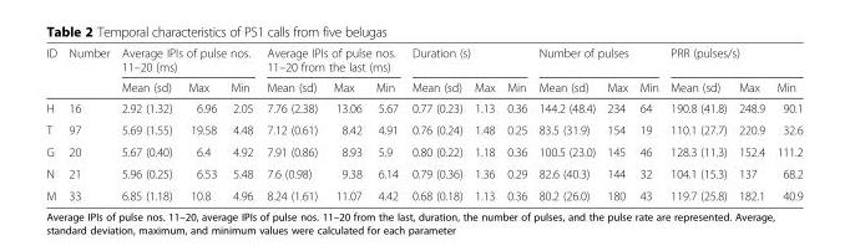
<table><thead><tr><td rowspan="2">ID</td><td rowspan="2">Number</td><td colspan="3">Average IPIs of pulse nos. 11–20 (ms)</td><td colspan="3">Average IPIs of pulse nos. 11–20 from the last (ms)</td><td colspan="3">Duration (s)</td><td colspan="3">Number of pulses</td><td colspan="3">PRR (pulses/s)</td></tr><tr><td>Mean (sd)</td><td>Max</td><td>Min</td><td>Mean (sd)</td><td>Max</td><td>Min</td><td>Mean (sd)</td><td>Max</td><td>Min</td><td>Mean (sd)</td><td>Max</td><td>Min</td><td>Mean (sd)</td><td>Max</td><td>Min</td></tr></thead><tbody><tr><td>H</td><td>16</td><td>2.92 (1.32)</td><td>6.96</td><td>2.05</td><td>7.76 (2.38)</td><td>13.06</td><td>5.67</td><td>0.77 (0.23)</td><td>1.13</td><td>0.36</td><td>144.2 (48.4)</td><td>234</td><td>64</td><td>190.8 (41.8)</td><td>248.9</td><td>90.1</td></tr><tr><td>T</td><td>97</td><td>5.69 (1.55)</td><td>19.58</td><td>4.48</td><td>7.12 (0.61)</td><td>8.42</td><td>4.91</td><td>0.76 (0.24)</td><td>1.48</td><td>0.25</td><td>83.5 (31.9)</td><td>154</td><td>19</td><td>110.1 (27.7)</td><td>220.9</td><td>32.6</td></tr><tr><td>G</td><td>20</td><td>5.67 (0.40)</td><td>6.4</td><td>4.92</td><td>7.91 (0.86)</td><td>8.93</td><td>5.9</td><td>0.80 (0.22)</td><td>1.18</td><td>0.36</td><td>100.5 (23.0)</td><td>145</td><td>46</td><td>128.3 (11.3)</td><td>152.4</td><td>111.2</td></tr><tr><td>N</td><td>21</td><td>5.96 (0.25)</td><td>6.53</td><td>5.48</td><td>7.6 (0.98)</td><td>9.38</td><td>6.14</td><td>0.79 (0.36)</td><td>1.36</td><td>0.29</td><td>82.6 (40.3)</td><td>144</td><td>32</td><td>104.1 (15.3)</td><td>137</td><td>68.2</td></tr><tr><td>M</td><td>33</td><td>6.85 (1.18)</td><td>10.8</td><td>4.96</td><td>8.24 (1.61)</td><td>11.07</td><td>4.42</td><td>0.68 (0.18)</td><td>1.13</td><td>0.36</td><td>80.2 (26.0)</td><td>180</td><td>43</td><td>119.7 (25.8)</td><td>182.1</td><td>40.9</td></tr></tbody></table>